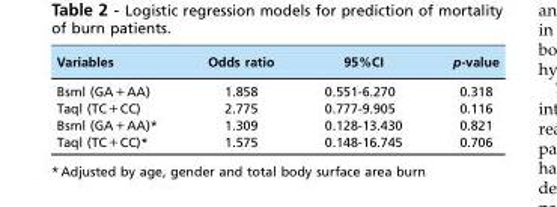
<table><thead><tr><td>Variables</td><td>Odds ratio</td><td>95%CI</td><td>p-value</td></tr></thead><tbody><tr><td>Bsml (GA+AA)</td><td>1.858</td><td>0.551-6.270</td><td>0.318</td></tr><tr><td>Taql (TC+CC)</td><td>2.775</td><td>0.777-9.905</td><td>0.116</td></tr><tr><td>Bsml (GA+AA)*</td><td>1.309</td><td>0.128-13.430</td><td>0.821</td></tr><tr><td>Taql (TC+CC)*</td><td>1.575</td><td>0.148-16.745</td><td>0.706</td></tr></tbody></table>